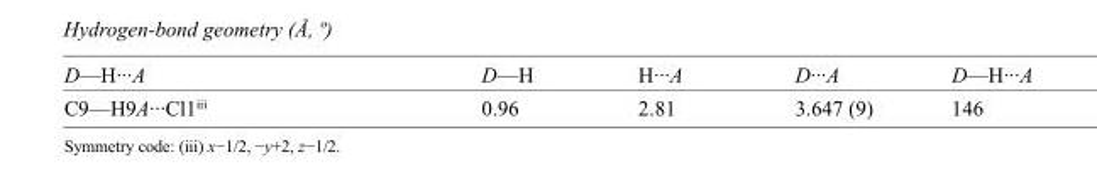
<table><tbody><tr><td>D—H···A</td><td>D—H</td><td>H···A</td><td>D···A</td><td>D—H···A</td></tr><tr><td>C9—H9A···Cl1<sup>iii</sup></td><td>0.96</td><td>2.81</td><td>3.647 (9)</td><td>146</td></tr></tbody></table>